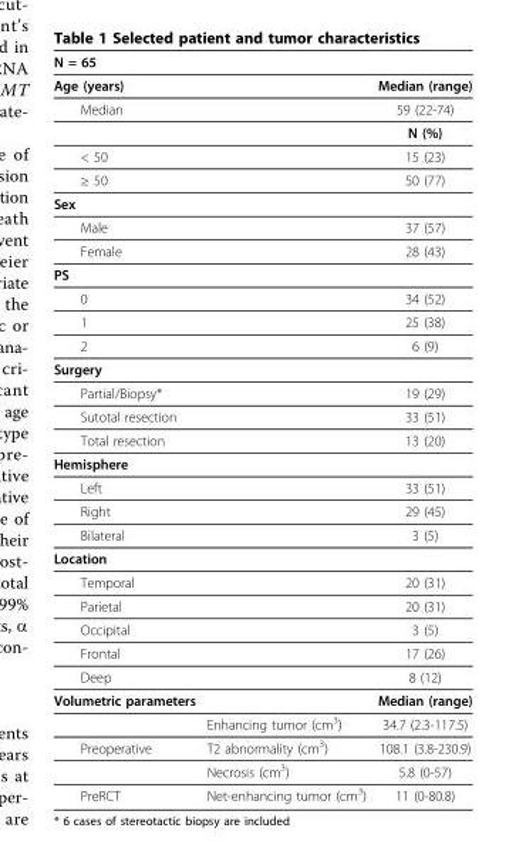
<table><thead><tr><td>N = 65</td><td></td><td></td></tr></thead><tbody><tr><td>Age (years)</td><td></td><td>Median (range)</td></tr><tr><td rowspan="2">Median</td><td></td><td>59 (22-74)</td></tr><tr><td></td><td>N (%)</td></tr><tr><td>&lt; 50</td><td></td><td>15 (23)</td></tr><tr><td>≥ 50</td><td></td><td>50 (77)</td></tr><tr><td colspan="3">Sex</td></tr><tr><td>Male</td><td></td><td>37 (57)</td></tr><tr><td>Female</td><td></td><td>28 (43)</td></tr><tr><td colspan="3">PS</td></tr><tr><td>0</td><td></td><td>34 (52)</td></tr><tr><td>1</td><td></td><td>25 (38)</td></tr><tr><td>2</td><td></td><td>6 (9)</td></tr><tr><td colspan="3">Surgery</td></tr><tr><td>Partial/Biopsy*</td><td></td><td>19 (29)</td></tr><tr><td>Sutotal resection</td><td></td><td>33 (51)</td></tr><tr><td>Total resection</td><td></td><td>13 (20)</td></tr><tr><td colspan="3">Hemisphere</td></tr><tr><td>Left</td><td></td><td>33 (51)</td></tr><tr><td>Right</td><td></td><td>29 (45)</td></tr><tr><td>Bilateral</td><td></td><td>3 (5)</td></tr><tr><td colspan="3">Location</td></tr><tr><td>Temporal</td><td></td><td>20 (31)</td></tr><tr><td>Parietal</td><td></td><td>20 (31)</td></tr><tr><td>Occipital</td><td></td><td>3 (5)</td></tr><tr><td>Frontal</td><td></td><td>17 (26)</td></tr><tr><td>Deep</td><td></td><td>8 (12)</td></tr><tr><td rowspan="2">Volumetric parameters</td><td></td><td>Median (range)</td></tr><tr><td>Enhancing tumor (cm<sup>3</sup>)</td><td>34.7 (2.3-117.5)</td></tr><tr><td rowspan="2">Preoperative</td><td>T2 abnormality (cm<sup>3</sup>)</td><td>108.1 (3.8-230.9)</td></tr><tr><td>Necrosis (cm<sup>3</sup>)</td><td>5.8 (0-57)</td></tr><tr><td>PreRCT</td><td>Net-enhancing tumor (cm<sup>3</sup>)</td><td>11 (0-80.8)</td></tr></tbody></table>